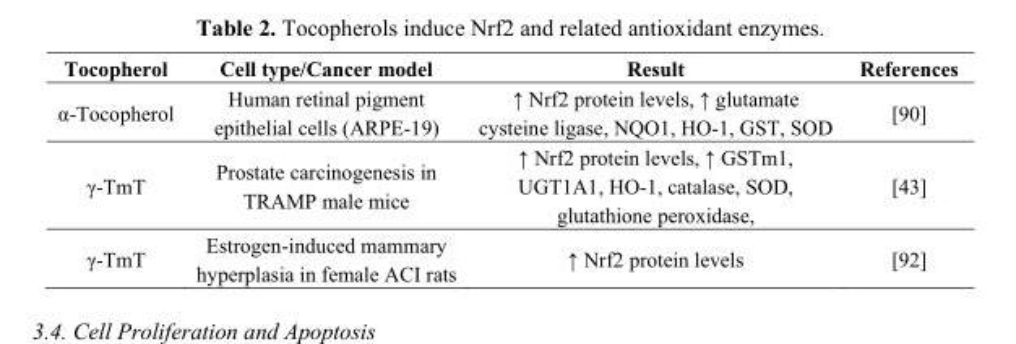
<table><thead><tr><td>Tocopherol</td><td>Cell type/Cancer model</td><td>Result</td><td>References</td></tr></thead><tbody><tr><td>α-Tocopherol</td><td>Human retinal pigment epithelial cells (ARPE-19)</td><td>↑ Nrf2 protein levels, ↑ glutamate cysteine ligase, NQO1, HO-1, GST, SOD</td><td>[90]</td></tr><tr><td>γ-TmT</td><td>Prostate carcinogenesis in TRAMP male mice</td><td>↑ Nrf2 protein levels, ↑ GSTm1, UGT1A1, HO-1, catalase, SOD, glutathione peroxidase,</td><td>[43]</td></tr><tr><td>γ-TmT</td><td>Estrogen-induced mammary hyperplasia in female ACI rats</td><td>↑ Nrf2 protein levels</td><td>[92]</td></tr></tbody></table>